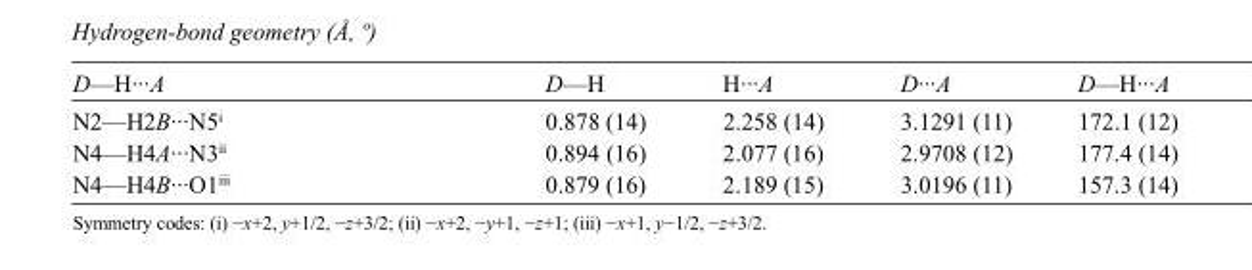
<table><tbody><tr><td>D—H···A</td><td>D—H</td><td>H···A</td><td>D···A</td><td>D—H···A</td></tr><tr><td>N2—H2B···N5<sup>i</sup></td><td>0.878 (14)</td><td>2.258 (14)</td><td>3.1291 (11)</td><td>172.1 (12)</td></tr><tr><td>N4—H4A···N3<sup>ii</sup></td><td>0.894 (16)</td><td>2.077 (16)</td><td>2.9708 (12)</td><td>177.4 (14)</td></tr><tr><td>N4—H4B···O1<sup>iii</sup></td><td>0.879 (16)</td><td>2.189 (15)</td><td>3.0196 (11)</td><td>157.3 (14)</td></tr></tbody></table>